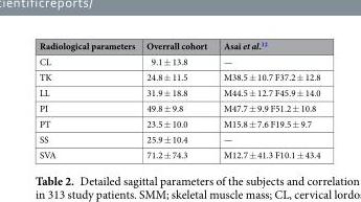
<table><thead><tr><td>Radiological parameters</td><td>Overrall cohort</td><td>Asai et al.<sup>12</sup></td></tr></thead><tbody><tr><td>CL</td><td>9.1 ± 13.8</td><td>—</td></tr><tr><td>TK</td><td>24.8 ± 11.5</td><td>M38.5 ± 10.7 F37.2 ± 12.8</td></tr><tr><td>LL</td><td>31.9 ± 18.8</td><td>M44.5 ± 12.7 F45.9 ± 14.0</td></tr><tr><td>PI</td><td>49.8 ± 9.8</td><td>M47.7 ± 9.9 F51.2 ± 10.8</td></tr><tr><td>PT</td><td>23.5 ± 10.0</td><td>M15.8 ± 7.6 F19.5 ± 9.7</td></tr><tr><td>SS</td><td>25.9 ± 10.4</td><td>—</td></tr><tr><td>SVA</td><td>71.2 ± 74.3</td><td>M12.7 ± 41.3 F10.1 ± 43.4</td></tr></tbody></table>